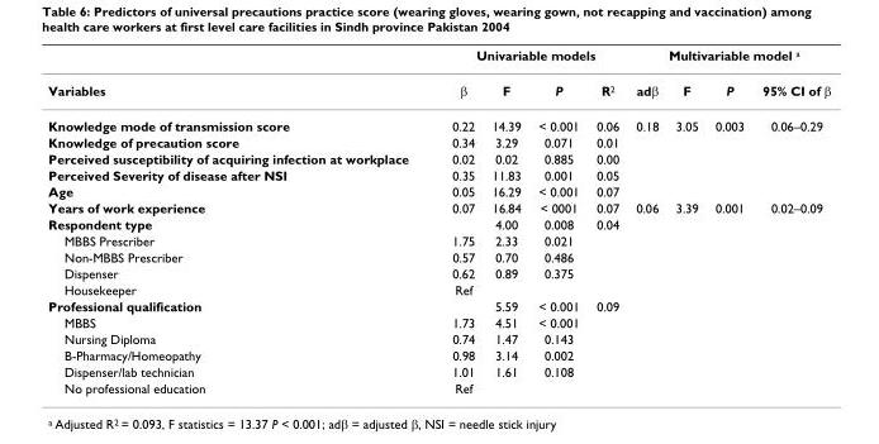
<table><thead><tr><td rowspan="2">Variables</td><td colspan="4">Univariable models</td><td colspan="4">Multivariable model <sup>a</sup></td></tr><tr><td>β</td><td>F</td><td>P</td><td>R<sup>2</sup></td><td>adβ</td><td>F</td><td>P</td><td>95% CI of β</td></tr></thead><tbody><tr><td>Knowledge mode of transmission score</td><td>0.22</td><td>14.39</td><td>&lt; 0.001</td><td>0.06</td><td>0.18</td><td>3.05</td><td>0.003</td><td>0.06–0.29</td></tr><tr><td>Knowledge of precaution score</td><td>0.34</td><td>3.29</td><td>0.071</td><td>0.01</td><td></td><td></td><td></td><td></td></tr><tr><td>Perceived susceptibility of acquiring infection at workplace</td><td>0.02</td><td>0.02</td><td>0.885</td><td>0.00</td><td></td><td></td><td></td><td></td></tr><tr><td>Perceived Severity of disease after NSI</td><td>0.35</td><td>11.83</td><td>0.001</td><td>0.05</td><td></td><td></td><td></td><td></td></tr><tr><td>Age</td><td>0.05</td><td>16.29</td><td>&lt; 0.001</td><td>0.07</td><td></td><td></td><td></td><td></td></tr><tr><td>Years of work experience</td><td>0.07</td><td>16.84</td><td>&lt; 0001</td><td>0.07</td><td>0.06</td><td>3.39</td><td>0.001</td><td>0.02–0.09</td></tr><tr><td>Respondent type</td><td></td><td>4.00</td><td>0.008</td><td>0.04</td><td></td><td></td><td></td><td></td></tr><tr><td>MBBS Prescriber</td><td>1.75</td><td>2.33</td><td>0.021</td><td></td><td></td><td></td><td></td><td></td></tr><tr><td>Non-MBBS Prescriber</td><td>0.57</td><td>0.70</td><td>0.486</td><td></td><td></td><td></td><td></td><td></td></tr><tr><td>Dispenser</td><td>0.62</td><td>0.89</td><td>0.375</td><td></td><td></td><td></td><td></td><td></td></tr><tr><td>Housekeeper</td><td>Ref</td><td></td><td></td><td></td><td></td><td></td><td></td><td></td></tr><tr><td>Professional qualification</td><td></td><td>5.59</td><td>&lt; 0.001</td><td>0.09</td><td></td><td></td><td></td><td></td></tr><tr><td>MBBS</td><td>1.73</td><td>4.51</td><td>&lt; 0.001</td><td></td><td></td><td></td><td></td><td></td></tr><tr><td>Nursing Diploma</td><td>0.74</td><td>1.47</td><td>0.143</td><td></td><td></td><td></td><td></td><td></td></tr><tr><td>B-Pharmacy/Homeopathy</td><td>0.98</td><td>3.14</td><td>0.002</td><td></td><td></td><td></td><td></td><td></td></tr><tr><td>Dispenser/lab technician</td><td>1.01</td><td>1.61</td><td>0.108</td><td></td><td></td><td></td><td></td><td></td></tr><tr><td>No professional education</td><td>Ref</td><td></td><td></td><td></td><td></td><td></td><td></td><td></td></tr></tbody></table>